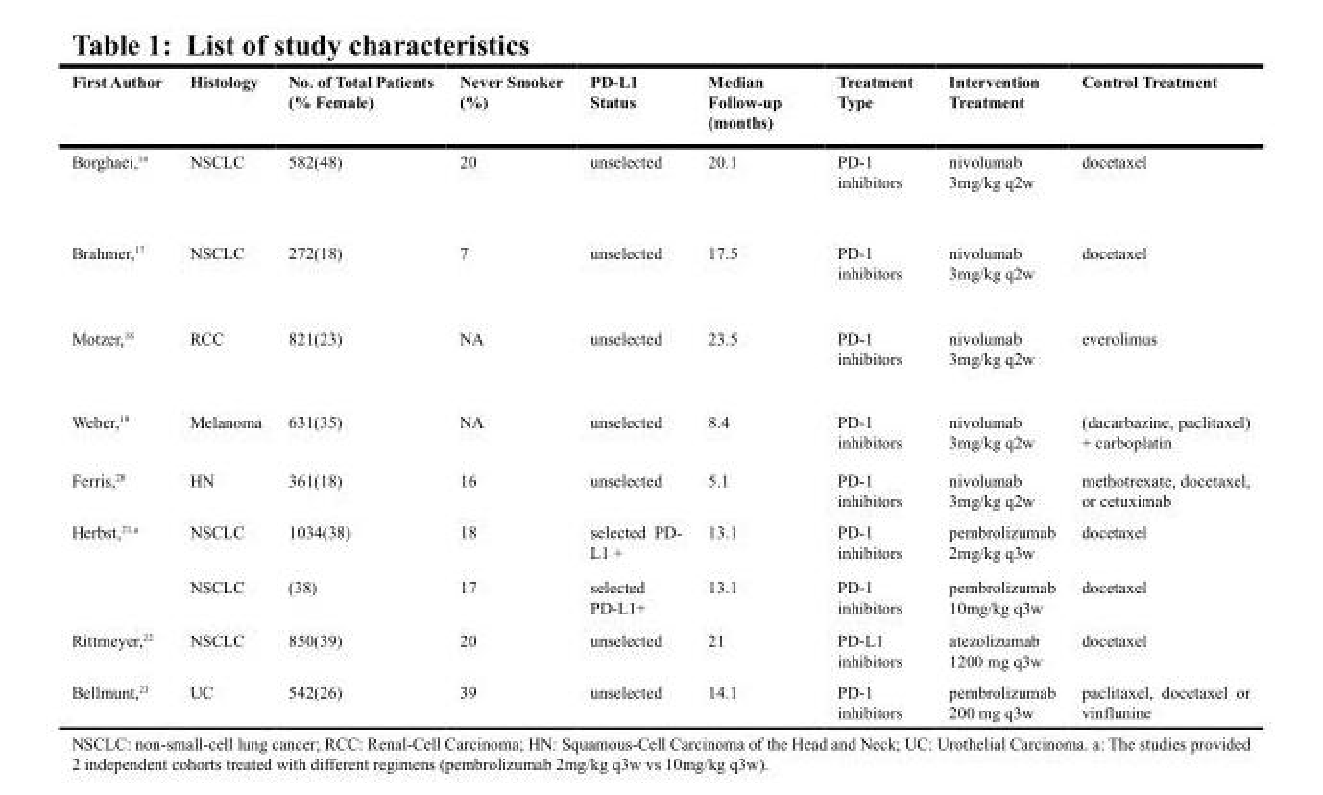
<table><thead><tr><td>First Author</td><td>Histology</td><td>No. of Total Patients (% Female)</td><td>Never Smoker (%)</td><td>PD-L1 Status</td><td>Median Follow-up (months)</td><td>Treatment Type</td><td>Intervention Treatment</td><td>Control Treatment</td></tr></thead><tbody><tr><td>Borghaei,<sup>16</sup></td><td>NSCLC</td><td>582(48)</td><td>20</td><td>unselected</td><td>20.1</td><td>PD-1 inhibitors</td><td>nivolumab 3mg/kg q2w</td><td>docetaxel</td></tr><tr><td>Brahmer,<sup>17</sup></td><td>NSCLC</td><td>272(18)</td><td>7</td><td>unselected</td><td>17.5</td><td>PD-1 inhibitors</td><td>nivolumab 3mg/kg q2w</td><td>docetaxel</td></tr><tr><td>Motzer,<sup>18</sup></td><td>RCC</td><td>821(23)</td><td>NA</td><td>unselected</td><td>23.5</td><td>PD-1 inhibitors</td><td>nivolumab 3mg/kg q2w</td><td>everolimus</td></tr><tr><td>Weber,<sup>19</sup></td><td>Melanoma</td><td>631(35)</td><td>NA</td><td>unselected</td><td>8.4</td><td>PD-1 inhibitors</td><td>nivolumab 3mg/kg q2w</td><td>(dacarbazine, paclitaxel) + carboplatin</td></tr><tr><td>Ferris,<sup>20</sup></td><td>HN</td><td>361(18)</td><td>16</td><td>unselected</td><td>5.1</td><td>PD-1 inhibitors</td><td>nivolumab 3mg/kg q2w</td><td>methotrexate, docetaxel, or cetuximab</td></tr><tr><td rowspan="2">Herbst,<sup>21,a</sup></td><td>NSCLC</td><td>1034(38)</td><td>18</td><td>selected PD- L1 +</td><td>13.1</td><td>PD-1 inhibitors</td><td>pembrolizumab 2mg/kg q3w</td><td>docetaxel</td></tr><tr><td>NSCLC</td><td>(38)</td><td>17</td><td>selected PD-L1+</td><td>13.1</td><td>PD-1 inhibitors</td><td>pembrolizumab 10mg/kg q3w</td><td>docetaxel</td></tr><tr><td>Rittmeyer,<sup>22</sup></td><td>NSCLC</td><td>850(39)</td><td>20</td><td>unselected</td><td>21</td><td>PD-L1 inhibitors</td><td>atezolizumab 1200 mg q3w</td><td>docetaxel</td></tr><tr><td>Bellmunt,<sup>23</sup></td><td>UC</td><td>542(26)</td><td>39</td><td>unselected</td><td>14.1</td><td>PD-1 inhibitors</td><td>pembrolizumab 200 mg q3w</td><td>paclitaxel, docetaxel or vinflunine</td></tr></tbody></table>